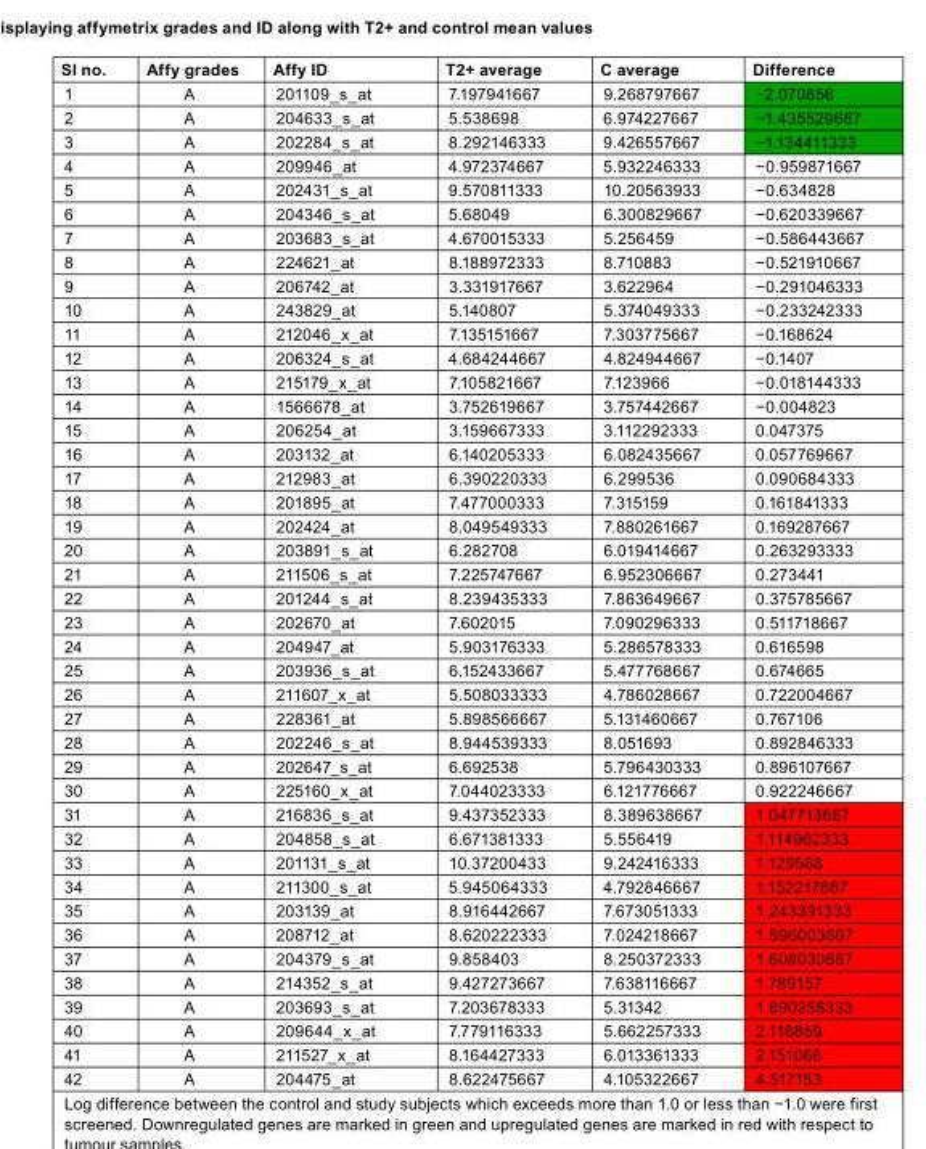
<table><thead><tr><td>Sl no.</td><td>Affy grades</td><td>Affy ID</td><td>T2+ average</td><td>C average</td><td>Difference</td></tr></thead><tbody><tr><td>1</td><td>A</td><td>201109_s_at</td><td>7.197941667</td><td>9.268797667</td><td>−2.070856</td></tr><tr><td>2</td><td>A</td><td>204633_s_at</td><td>5.538698</td><td>6.974227667</td><td>−1.435529667</td></tr><tr><td>3</td><td>A</td><td>202284_s_at</td><td>8.292146333</td><td>9.426557667</td><td>−1.134411333</td></tr><tr><td>4</td><td>A</td><td>209946_at</td><td>4.972374667</td><td>5.932246333</td><td>−0.959871667</td></tr><tr><td>5</td><td>A</td><td>202431_s_at</td><td>9.570811333</td><td>10.20563933</td><td>−0.634828</td></tr><tr><td>6</td><td>A</td><td>204346_s_at</td><td>5.68049</td><td>6.300829667</td><td>−0.620339667</td></tr><tr><td>7</td><td>A</td><td>203683_s_at</td><td>4.670015333</td><td>5.256459</td><td>−0.586443667</td></tr><tr><td>8</td><td>A</td><td>224621_at</td><td>8.188972333</td><td>8.710883</td><td>−0.521910667</td></tr><tr><td>9</td><td>A</td><td>206742_at</td><td>3.331917667</td><td>3.622964</td><td>−0.291046333</td></tr><tr><td>10</td><td>A</td><td>243829_at</td><td>5.140807</td><td>5.374049333</td><td>−0.233242333</td></tr><tr><td>11</td><td>A</td><td>212046_x_at</td><td>7.135151667</td><td>7.303775667</td><td>−0.168624</td></tr><tr><td>12</td><td>A</td><td>206324_s_at</td><td>4.684244667</td><td>4.824944667</td><td>−0.1407</td></tr><tr><td>13</td><td>A</td><td>215179_x_at</td><td>7.105821667</td><td>7.123966</td><td>−0.018144333</td></tr><tr><td>14</td><td>A</td><td>1566678_at</td><td>3.752619667</td><td>3.757442667</td><td>−0.004823</td></tr><tr><td>15</td><td>A</td><td>206254_at</td><td>3.159667333</td><td>3.112292333</td><td>0.047375</td></tr><tr><td>16</td><td>A</td><td>203132_at</td><td>6.140205333</td><td>6.082435667</td><td>0.057769667</td></tr><tr><td>17</td><td>A</td><td>212983_at</td><td>6.390220333</td><td>6.299536</td><td>0.090684333</td></tr><tr><td>18</td><td>A</td><td>201895_at</td><td>7.477000333</td><td>7.315159</td><td>0.161841333</td></tr><tr><td>19</td><td>A</td><td>202424_at</td><td>8.049549333</td><td>7.880261667</td><td>0.169287667</td></tr><tr><td>20</td><td>A</td><td>203891_s_at</td><td>6.282708</td><td>6.019414667</td><td>0.263293333</td></tr><tr><td>21</td><td>A</td><td>211506_s_at</td><td>7.225747667</td><td>6.952306667</td><td>0.273441</td></tr><tr><td>22</td><td>A</td><td>201244_s_at</td><td>8.239435333</td><td>7.863649667</td><td>0.375785667</td></tr><tr><td>23</td><td>A</td><td>202670_at</td><td>7.602015</td><td>7.090296333</td><td>0.511718667</td></tr><tr><td>24</td><td>A</td><td>204947_at</td><td>5.903176333</td><td>5.286578333</td><td>0.616598</td></tr><tr><td>25</td><td>A</td><td>203936_s_at</td><td>6.152433667</td><td>5.477768667</td><td>0.674665</td></tr><tr><td>26</td><td>A</td><td>211607_x_at</td><td>5.508033333</td><td>4.786028667</td><td>0.722004667</td></tr><tr><td>27</td><td>A</td><td>228361_at</td><td>5.898566667</td><td>5.131460667</td><td>0.767106</td></tr><tr><td>28</td><td>A</td><td>202246_s_at</td><td>8.944539333</td><td>8.051693</td><td>0.892846333</td></tr><tr><td>29</td><td>A</td><td>202647_s_at</td><td>6.692538</td><td>5.796430333</td><td>0.896107667</td></tr><tr><td>30</td><td>A</td><td>225160_x_at</td><td>7.044023333</td><td>6.121776667</td><td>0.922246667</td></tr><tr><td>31</td><td>A</td><td>216836_s_at</td><td>9.437352333</td><td>8.389638667</td><td>1.047713667</td></tr><tr><td>32</td><td>A</td><td>204858_s_at</td><td>6.671381333</td><td>5.556419</td><td>1.114962333</td></tr><tr><td>33</td><td>A</td><td>201131_s_at</td><td>10.37200433</td><td>9.242416333</td><td>1.129588</td></tr><tr><td>34</td><td>A</td><td>211300_s_at</td><td>5.945064333</td><td>4.792846667</td><td>1.152217667</td></tr><tr><td>35</td><td>A</td><td>203139_at</td><td>8.916442667</td><td>7.673051333</td><td>1.243391333</td></tr><tr><td>36</td><td>A</td><td>208712_at</td><td>8.620222333</td><td>7.024218667</td><td>1.596003667</td></tr><tr><td>37</td><td>A</td><td>204379_s_at</td><td>9.858403</td><td>8.250372333</td><td>1.608030667</td></tr><tr><td>38</td><td>A</td><td>214352_s_at</td><td>9.427273667</td><td>7.638116667</td><td>1.789157</td></tr><tr><td>39</td><td>A</td><td>203693_s_at</td><td>7.203678333</td><td>5.31342</td><td>1.890258333</td></tr><tr><td>40</td><td>A</td><td>209644_x_at</td><td>7.779116333</td><td>5.662257333</td><td>2.116859</td></tr><tr><td>41</td><td>A</td><td>211527_x_at</td><td>8.164427333</td><td>6.013361333</td><td>2.151066</td></tr><tr><td>42</td><td>A</td><td>204475_at</td><td>8.622475667</td><td>4.105322667</td><td>4.517153</td></tr></tbody></table>